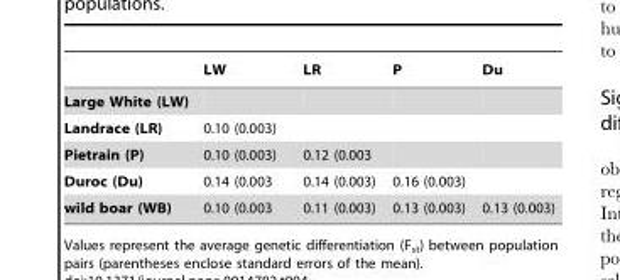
<table><thead><tr><td></td><td>LW</td><td>LR</td><td>P</td><td>Du</td></tr></thead><tbody><tr><td colspan="5">Large White (LW)</td></tr><tr><td>Landrace (LR)</td><td>0.10 (0.003)</td><td></td><td></td><td></td></tr><tr><td>Pietrain (P)</td><td>0.10 (0.003)</td><td>0.12 (0.003</td><td></td><td></td></tr><tr><td>Duroc (Du)</td><td>0.14 (0.003</td><td>0.14 (0.003)</td><td>0.16 (0.003)</td><td></td></tr><tr><td>wild boar (WB)</td><td>0.10 (0.003</td><td>0.11 (0.003)</td><td>0.13 (0.003)</td><td>0.13 (0.003)</td></tr></tbody></table>